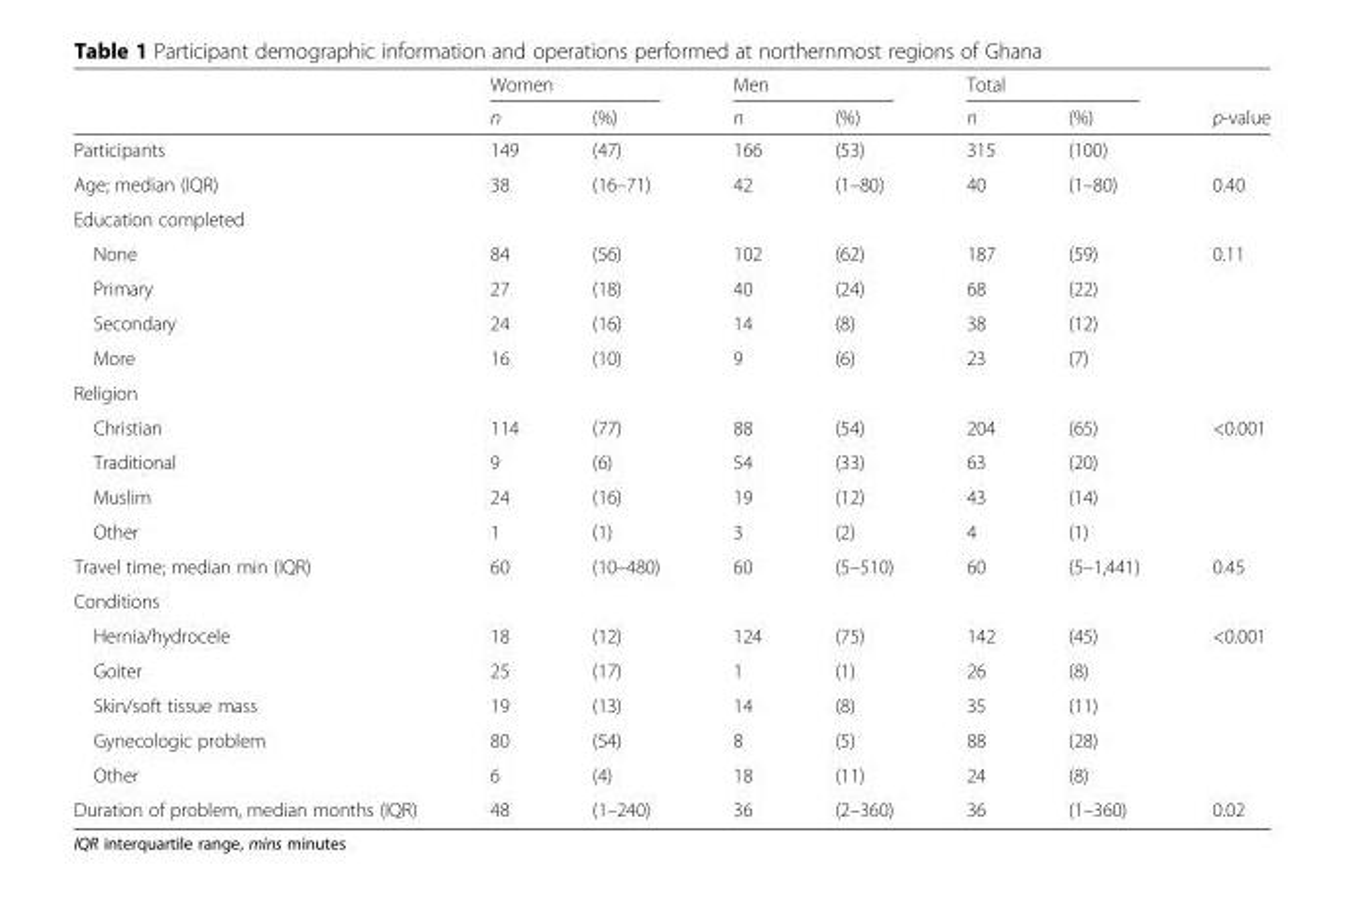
<table><thead><tr><td rowspan="2"></td><td colspan="2">Women</td><td colspan="2">Men</td><td colspan="2">Total</td><td rowspan="2">p-value</td></tr><tr><td>n</td><td>(%)</td><td>n</td><td>(%)</td><td>n</td><td>(%)</td></tr></thead><tbody><tr><td>Participants</td><td>149</td><td>(47)</td><td>166</td><td>(53)</td><td>315</td><td>(100)</td><td></td></tr><tr><td>Age; median (IQR)</td><td>38</td><td>(16–71)</td><td>42</td><td>(1–80)</td><td>40</td><td>(1–80)</td><td>0.40</td></tr><tr><td colspan="8">Education completed</td></tr><tr><td>None</td><td>84</td><td>(56)</td><td>102</td><td>(62)</td><td>187</td><td>(59)</td><td rowspan="4">0.11</td></tr><tr><td>Primary</td><td>27</td><td>(18)</td><td>40</td><td>(24)</td><td>68</td><td>(22)</td></tr><tr><td>Secondary</td><td>24</td><td>(16)</td><td>14</td><td>(8)</td><td>38</td><td>(12)</td></tr><tr><td>More</td><td>16</td><td>(10)</td><td>9</td><td>(6)</td><td>23</td><td>(7)</td></tr><tr><td colspan="8">Religion</td></tr><tr><td>Christian</td><td>114</td><td>(77)</td><td>88</td><td>(54)</td><td>204</td><td>(65)</td><td rowspan="4">&lt;0.001</td></tr><tr><td>Traditional</td><td>9</td><td>(6)</td><td>54</td><td>(33)</td><td>63</td><td>(20)</td></tr><tr><td>Muslim</td><td>24</td><td>(16)</td><td>19</td><td>(12)</td><td>43</td><td>(14)</td></tr><tr><td>Other</td><td>1</td><td>(1)</td><td>3</td><td>(2)</td><td>4</td><td>(1)</td></tr><tr><td>Travel time; median min (IQR)</td><td>60</td><td>(10–480)</td><td>60</td><td>(5–510)</td><td>60</td><td>(5–1,441)</td><td>0.45</td></tr><tr><td colspan="8">Conditions</td></tr><tr><td>Hernia/hydrocele</td><td>18</td><td>(12)</td><td>124</td><td>(75)</td><td>142</td><td>(45)</td><td rowspan="5">&lt;0.001</td></tr><tr><td>Goiter</td><td>25</td><td>(17)</td><td>1</td><td>(1)</td><td>26</td><td>(8)</td></tr><tr><td>Skin/soft tissue mass</td><td>19</td><td>(13)</td><td>14</td><td>(8)</td><td>35</td><td>(11)</td></tr><tr><td>Gynecologic problem</td><td>80</td><td>(54)</td><td>8</td><td>(5)</td><td>88</td><td>(28)</td></tr><tr><td>Other</td><td>6</td><td>(4)</td><td>18</td><td>(11)</td><td>24</td><td>(8)</td></tr><tr><td>Duration of problem, median months (IQR)</td><td>48</td><td>(1–240)</td><td>36</td><td>(2–360)</td><td>36</td><td>(1–360)</td><td>0.02</td></tr></tbody></table>